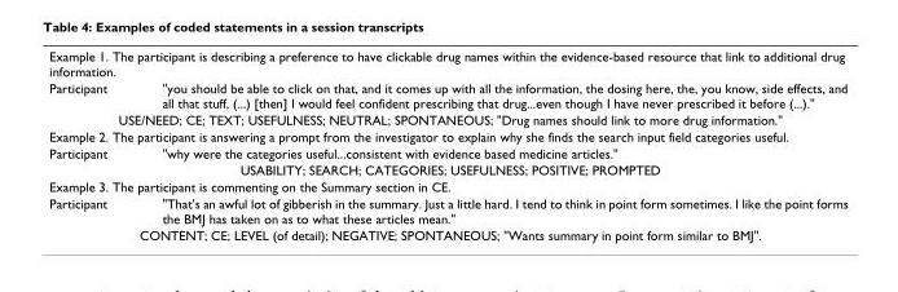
<table><tbody><tr><td colspan="2">Example 1. The participant is describing a preference to have clickable drug names within the evidence-based resource that link to additional drug information.</td></tr><tr><td>Participant</td><td>&quot;you should be able to click on that, and it comes up with all the information, the dosing here, the, you know, side effects, and all that stuff, (...) [then] I would feel confident prescribing that drug...even though I have never prescribed it before (...).&quot;</td></tr><tr><td colspan="2">USE/NEED; CE; TEXT; USEFULNESS; NEUTRAL; SPONTANEOUS; &quot;Drug names should link to more drug information.&quot;</td></tr><tr><td colspan="2">Example 2. The participant is answering a prompt from the investigator to explain why she finds the search input field categories useful.</td></tr><tr><td>Participant</td><td>&quot;why were the categories useful...consistent with evidence based medicine articles.&quot;</td></tr><tr><td colspan="2">USABILITY; SEARCH; CATEGORIES; USEFULNESS; POSITIVE; PROMPTED</td></tr><tr><td colspan="2">Example 3. The participant is commenting on the Summary section in CE.</td></tr><tr><td>Participant</td><td>&quot;That&#x27;s an awful lot of gibberish in the summary. Just a little hard. I tend to think in point form sometimes. I like the point forms the BMJ has taken on as to what these articles mean.&quot;</td></tr><tr><td colspan="2">CONTENT; CE; LEVEL (of detail); NEGATIVE; SPONTANEOUS; &quot;Wants summary in point form similar to BMJ&quot;.</td></tr></tbody></table>